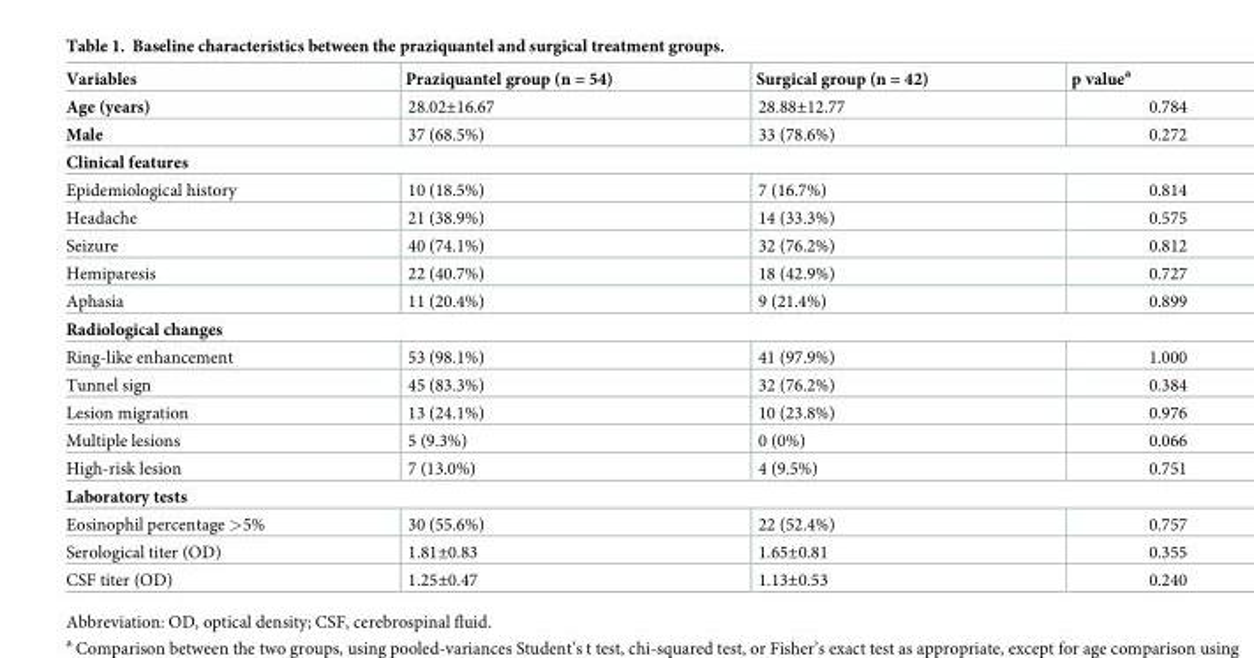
<table><thead><tr><td>Variables</td><td>Praziquantel group (n = 54)</td><td>Surgical group (n = 42)</td><td>p value<sup>a</sup></td></tr></thead><tbody><tr><td>Age (years)</td><td>28.02±16.67</td><td>28.88±12.77</td><td>0.784</td></tr><tr><td>Male</td><td>37 (68.5%)</td><td>33 (78.6%)</td><td>0.272</td></tr><tr><td colspan="4">Clinical features</td></tr><tr><td>Epidemiological history</td><td>10 (18.5%)</td><td>7 (16.7%)</td><td>0.814</td></tr><tr><td>Headache</td><td>21 (38.9%)</td><td>14 (33.3%)</td><td>0.575</td></tr><tr><td>Seizure</td><td>40 (74.1%)</td><td>32 (76.2%)</td><td>0.812</td></tr><tr><td>Hemiparesis</td><td>22 (40.7%)</td><td>18 (42.9%)</td><td>0.727</td></tr><tr><td>Aphasia</td><td>11 (20.4%)</td><td>9 (21.4%)</td><td>0.899</td></tr><tr><td colspan="4">Radiological changes</td></tr><tr><td>Ring-like enhancement</td><td>53 (98.1%)</td><td>41 (97.9%)</td><td>1.000</td></tr><tr><td>Tunnel sign</td><td>45 (83.3%)</td><td>32 (76.2%)</td><td>0.384</td></tr><tr><td>Lesion migration</td><td>13 (24.1%)</td><td>10 (23.8%)</td><td>0.976</td></tr><tr><td>Multiple lesions</td><td>5 (9.3%)</td><td>0 (0%)</td><td>0.066</td></tr><tr><td>High-risk lesion</td><td>7 (13.0%)</td><td>4 (9.5%)</td><td>0.751</td></tr><tr><td colspan="4">Laboratory tests</td></tr><tr><td>Eosinophil percentage &gt;5%</td><td>30 (55.6%)</td><td>22 (52.4%)</td><td>0.757</td></tr><tr><td>Serological titer (OD)</td><td>1.81±0.83</td><td>1.65±0.81</td><td>0.355</td></tr><tr><td>CSF titer (OD)</td><td>1.25±0.47</td><td>1.13±0.53</td><td>0.240</td></tr></tbody></table>